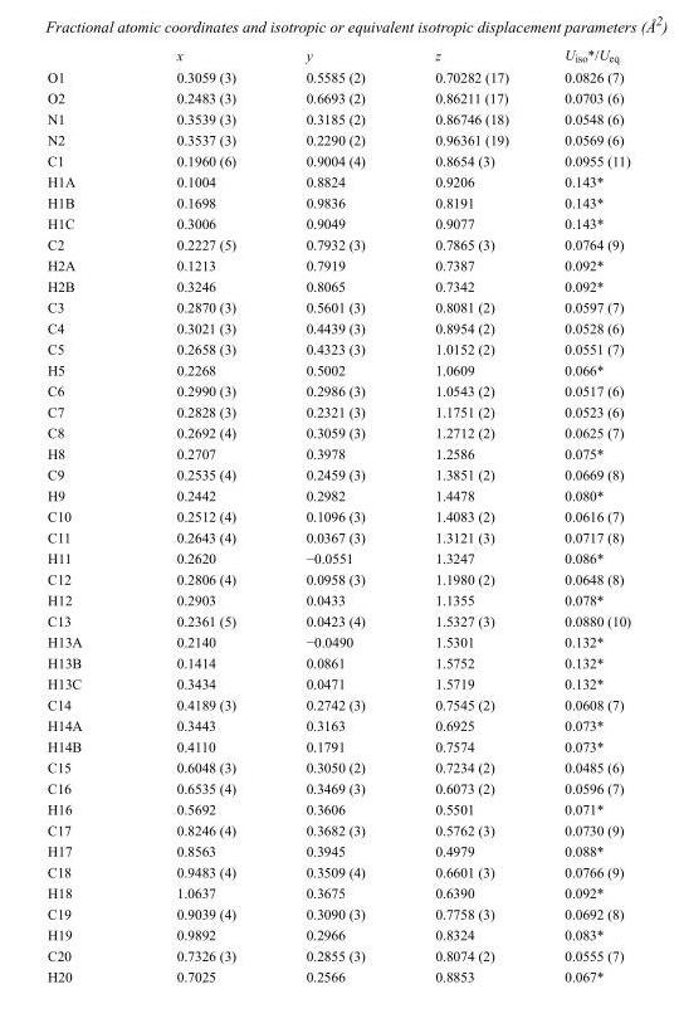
<table><thead><tr><td></td><td>x</td><td>y</td><td>z</td><td>U<sub>iso</sub>*/U<sub>eq</sub></td></tr></thead><tbody><tr><td>O1</td><td>0.3059 (3)</td><td>0.5585 (2)</td><td>0.70282 (17)</td><td>0.0826 (7)</td></tr><tr><td>O2</td><td>0.2483 (3)</td><td>0.6693 (2)</td><td>0.86211 (17)</td><td>0.0703 (6)</td></tr><tr><td>N1</td><td>0.3539 (3)</td><td>0.3185 (2)</td><td>0.86746 (18)</td><td>0.0548 (6)</td></tr><tr><td>N2</td><td>0.3537 (3)</td><td>0.2290 (2)</td><td>0.96361 (19)</td><td>0.0569 (6)</td></tr><tr><td>C1</td><td>0.1960 (6)</td><td>0.9004 (4)</td><td>0.8654 (3)</td><td>0.0955 (11)</td></tr><tr><td>H1A</td><td>0.1004</td><td>0.8824</td><td>0.9206</td><td>0.143*</td></tr><tr><td>H1B</td><td>0.1698</td><td>0.9836</td><td>0.8191</td><td>0.143*</td></tr><tr><td>H1C</td><td>0.3006</td><td>0.9049</td><td>0.9077</td><td>0.143*</td></tr><tr><td>C2</td><td>0.2227 (5)</td><td>0.7932 (3)</td><td>0.7865 (3)</td><td>0.0764 (9)</td></tr><tr><td>H2A</td><td>0.1213</td><td>0.7919</td><td>0.7387</td><td>0.092*</td></tr><tr><td>H2B</td><td>0.3246</td><td>0.8065</td><td>0.7342</td><td>0.092*</td></tr><tr><td>C3</td><td>0.2870 (3)</td><td>0.5601 (3)</td><td>0.8081 (2)</td><td>0.0597 (7)</td></tr><tr><td>C4</td><td>0.3021 (3)</td><td>0.4439 (3)</td><td>0.8954 (2)</td><td>0.0528 (6)</td></tr><tr><td>C5</td><td>0.2658 (3)</td><td>0.4323 (3)</td><td>1.0152 (2)</td><td>0.0551 (7)</td></tr><tr><td>H5</td><td>0.2268</td><td>0.5002</td><td>1.0609</td><td>0.066*</td></tr><tr><td>C6</td><td>0.2990 (3)</td><td>0.2986 (3)</td><td>1.0543 (2)</td><td>0.0517 (6)</td></tr><tr><td>C7</td><td>0.2828 (3)</td><td>0.2321 (3)</td><td>1.1751 (2)</td><td>0.0523 (6)</td></tr><tr><td>C8</td><td>0.2692 (4)</td><td>0.3059 (3)</td><td>1.2712 (2)</td><td>0.0625 (7)</td></tr><tr><td>H8</td><td>0.2707</td><td>0.3978</td><td>1.2586</td><td>0.075*</td></tr><tr><td>C9</td><td>0.2535 (4)</td><td>0.2459 (3)</td><td>1.3851 (2)</td><td>0.0669 (8)</td></tr><tr><td>H9</td><td>0.2442</td><td>0.2982</td><td>1.4478</td><td>0.080*</td></tr><tr><td>C10</td><td>0.2512 (4)</td><td>0.1096 (3)</td><td>1.4083 (2)</td><td>0.0616 (7)</td></tr><tr><td>C11</td><td>0.2643 (4)</td><td>0.0367 (3)</td><td>1.3121 (3)</td><td>0.0717 (8)</td></tr><tr><td>H11</td><td>0.2620</td><td>−0.0551</td><td>1.3247</td><td>0.086*</td></tr><tr><td>C12</td><td>0.2806 (4)</td><td>0.0958 (3)</td><td>1.1980 (2)</td><td>0.0648 (8)</td></tr><tr><td>H12</td><td>0.2903</td><td>0.0433</td><td>1.1355</td><td>0.078*</td></tr><tr><td>C13</td><td>0.2361 (5)</td><td>0.0423 (4)</td><td>1.5327 (3)</td><td>0.0880 (10)</td></tr><tr><td>H13A</td><td>0.2140</td><td>−0.0490</td><td>1.5301</td><td>0.132*</td></tr><tr><td>H13B</td><td>0.1414</td><td>0.0861</td><td>1.5752</td><td>0.132*</td></tr><tr><td>H13C</td><td>0.3434</td><td>0.0471</td><td>1.5719</td><td>0.132*</td></tr><tr><td>C14</td><td>0.4189 (3)</td><td>0.2742 (3)</td><td>0.7545 (2)</td><td>0.0608 (7)</td></tr><tr><td>H14A</td><td>0.3443</td><td>0.3163</td><td>0.6925</td><td>0.073*</td></tr><tr><td>H14B</td><td>0.4110</td><td>0.1791</td><td>0.7574</td><td>0.073*</td></tr><tr><td>C15</td><td>0.6048 (3)</td><td>0.3050 (2)</td><td>0.7234 (2)</td><td>0.0485 (6)</td></tr><tr><td>C16</td><td>0.6535 (4)</td><td>0.3469 (3)</td><td>0.6073 (2)</td><td>0.0596 (7)</td></tr><tr><td>H16</td><td>0.5692</td><td>0.3606</td><td>0.5501</td><td>0.071*</td></tr><tr><td>C17</td><td>0.8246 (4)</td><td>0.3682 (3)</td><td>0.5762 (3)</td><td>0.0730 (9)</td></tr><tr><td>H17</td><td>0.8563</td><td>0.3945</td><td>0.4979</td><td>0.088*</td></tr><tr><td>C18</td><td>0.9483 (4)</td><td>0.3509 (4)</td><td>0.6601 (3)</td><td>0.0766 (9)</td></tr><tr><td>H18</td><td>1.0637</td><td>0.3675</td><td>0.6390</td><td>0.092*</td></tr><tr><td>C19</td><td>0.9039 (4)</td><td>0.3090 (3)</td><td>0.7758 (3)</td><td>0.0692 (8)</td></tr><tr><td>H19</td><td>0.9892</td><td>0.2966</td><td>0.8324</td><td>0.083*</td></tr><tr><td>C20</td><td>0.7326 (3)</td><td>0.2855 (3)</td><td>0.8074 (2)</td><td>0.0555 (7)</td></tr><tr><td>H20</td><td>0.7025</td><td>0.2566</td><td>0.8853</td><td>0.067*</td></tr></tbody></table>